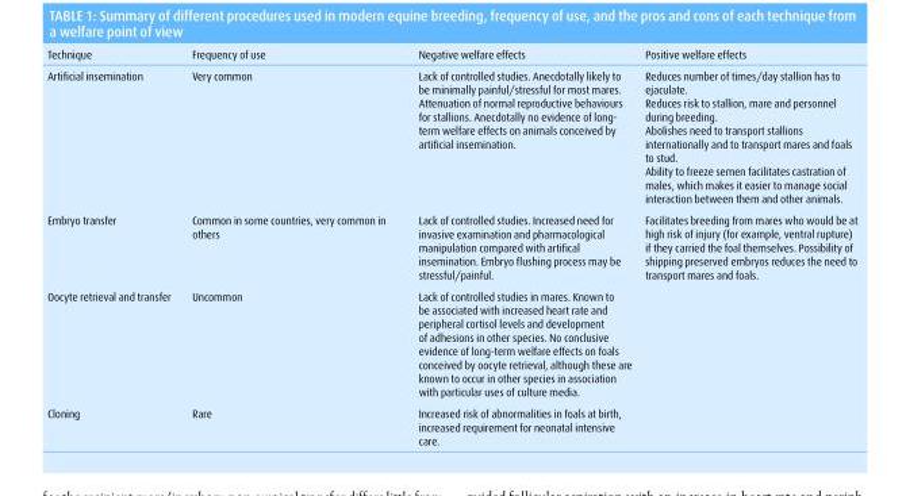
<table><thead><tr><td>Technique</td><td>Frequency of use</td><td>Negative welfare effects</td><td>Positive welfare effects</td></tr></thead><tbody><tr><td>Artificial insemination</td><td>Very common</td><td>Lack of controlled studies. Anecdotally likely to be minimally painful/stressful for most mares. Attenuation of normal reproductive behaviours for stallions. Anecdotally no evidence of long- term welfare effects on animals conceived by artificial insemination.</td><td>Reduces number of times/day stallion has to ejaculate. Reduces risk to stallion, mare and personnel during breeding. Abolishes need to transport stallions internationally and to transport mares and foals to stud. Ability to freeze semen facilitates castration of males, which makes it easier to manage social interaction between them and other animals.</td></tr><tr><td>Embryo transfer</td><td>Common in some countries, very common in others</td><td>Lack of controlled studies. Increased need for invasive examination and pharmacological manipulation compared with artifical insemination. Embryo flushing process may be stressful/painful.</td><td>Facilitates breeding from mares who would be at high risk of injury (for example, ventral rupture) if they carried the foal themselves. Possibility of shipping preserved embryos reduces the need to transport mares and foals.</td></tr><tr><td>Oocyte retrieval and transfer</td><td>Uncommon</td><td>Lack of controlled studies in mares. Known to be associated with increased heart rate and peripheral cortisol levels and development of adhesions in other species. No conclusive evidence of long-term welfare effects on foals conceived by oocyte retrieval, although these are known to occur in other species in association with particular uses of culture media.</td><td></td></tr><tr><td>Cloning</td><td>Rare</td><td>Increased risk of abnormalities in foals at birth, increased requirement for neonatal intensive care.</td><td></td></tr></tbody></table>